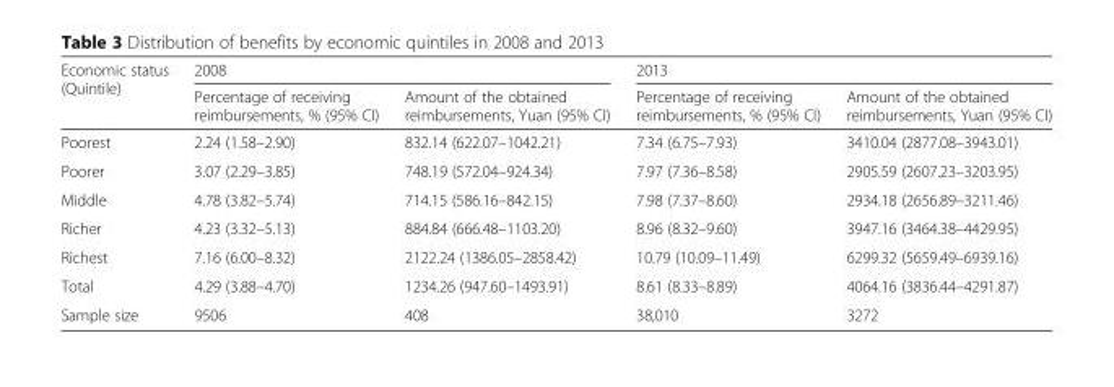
<table><thead><tr><td rowspan="2">Economic status (Quintile)</td><td colspan="2">2008</td><td colspan="2">2013</td></tr><tr><td>Percentage of receiving reimbursements, % (95% CI)</td><td>Amount of the obtained reimbursements, Yuan (95% CI)</td><td>Percentage of receiving reimbursements, % (95% CI)</td><td>Amount of the obtained reimbursements, Yuan (95% CI)</td></tr></thead><tbody><tr><td>Poorest</td><td>2.24 (1.58–2.90)</td><td>832.14 (622.07–1042.21)</td><td>7.34 (6.75–7.93)</td><td>3410.04 (2877.08–3943.01)</td></tr><tr><td>Poorer</td><td>3.07 (2.29–3.85)</td><td>748.19 (572.04–924.34)</td><td>7.97 (7.36–8.58)</td><td>2905.59 (2607.23–3203.95)</td></tr><tr><td>Middle</td><td>4.78 (3.82–5.74)</td><td>714.15 (586.16–842.15)</td><td>7.98 (7.37–8.60)</td><td>2934.18 (2656.89–3211.46)</td></tr><tr><td>Richer</td><td>4.23 (3.32–5.13)</td><td>884.84 (666.48–1103.20)</td><td>8.96 (8.32–9.60)</td><td>3947.16 (3464.38–4429.95)</td></tr><tr><td>Richest</td><td>7.16 (6.00–8.32)</td><td>2122.24 (1386.05–2858.42)</td><td>10.79 (10.09–11.49)</td><td>6299.32 (5659.49–6939.16)</td></tr><tr><td>Total</td><td>4.29 (3.88–4.70)</td><td>1234.26 (947.60–1493.91)</td><td>8.61 (8.33–8.89)</td><td>4064.16 (3836.44–4291.87)</td></tr><tr><td>Sample size</td><td>9506</td><td>408</td><td>38,010</td><td>3272</td></tr></tbody></table>